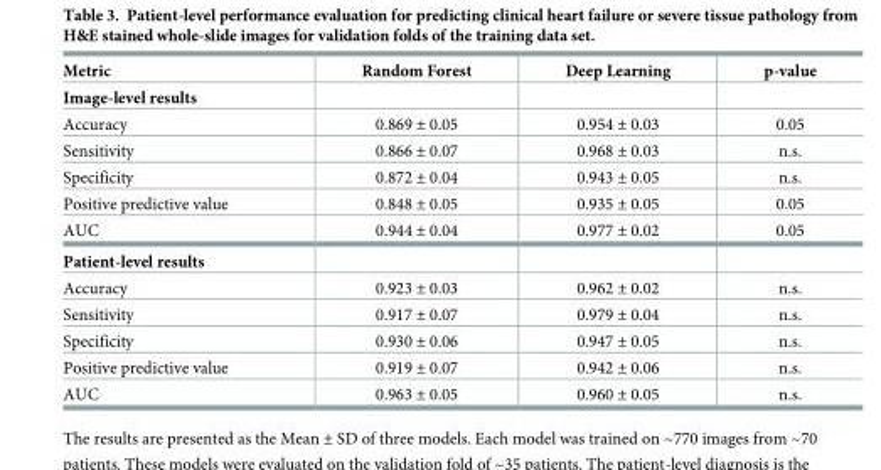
<table><thead><tr><td>Metric</td><td>Random Forest</td><td>Deep Learning</td><td>p-value</td></tr></thead><tbody><tr><td colspan="4">Image-level results</td></tr><tr><td>Accuracy</td><td>0.869 ± 0.05</td><td>0.954 ± 0.03</td><td>0.05</td></tr><tr><td>Sensitivity</td><td>0.866 ± 0.07</td><td>0.968 ± 0.03</td><td>n.s.</td></tr><tr><td>Specificity</td><td>0.872 ± 0.04</td><td>0.943 ± 0.05</td><td>n.s.</td></tr><tr><td>Positive predictive value</td><td>0.848 ± 0.05</td><td>0.935 ± 0.05</td><td>0.05</td></tr><tr><td>AUC</td><td>0.944 ± 0.04</td><td>0.977 ± 0.02</td><td>0.05</td></tr><tr><td colspan="4">Patient-level results</td></tr><tr><td>Accuracy</td><td>0.923 ± 0.03</td><td>0.962 ± 0.02</td><td>n.s.</td></tr><tr><td>Sensitivity</td><td>0.917 ± 0.07</td><td>0.979 ± 0.04</td><td>n.s.</td></tr><tr><td>Specificity</td><td>0.930 ± 0.06</td><td>0.947 ± 0.05</td><td>n.s.</td></tr><tr><td>Positive predictive value</td><td>0.919 ± 0.07</td><td>0.942 ± 0.06</td><td>n.s.</td></tr><tr><td>AUC</td><td>0.963 ± 0.05</td><td>0.960 ± 0.05</td><td>n.s.</td></tr></tbody></table>